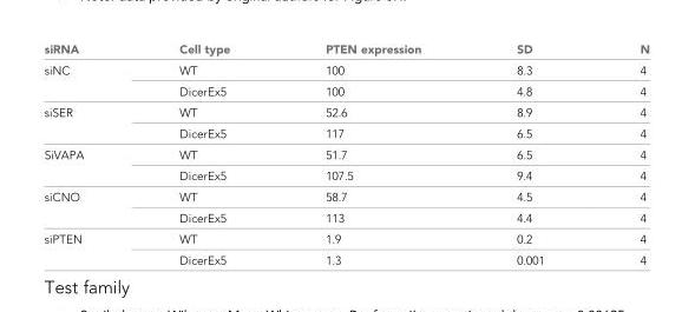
<table><thead><tr><td>siRNA</td><td>Cell type</td><td>PTEN expression</td><td>SD</td><td>N</td></tr></thead><tbody><tr><td rowspan="2">siNC</td><td>WT</td><td>100</td><td>8.3</td><td>4</td></tr><tr><td>DicerEx5</td><td>100</td><td>4.8</td><td>4</td></tr><tr><td rowspan="2">siSER</td><td>WT</td><td>52.6</td><td>8.9</td><td>4</td></tr><tr><td>DicerEx5</td><td>117</td><td>6.5</td><td>4</td></tr><tr><td rowspan="2">SiVAPA</td><td>WT</td><td>51.7</td><td>6.5</td><td>4</td></tr><tr><td>DicerEx5</td><td>107.5</td><td>9.4</td><td>4</td></tr><tr><td rowspan="2">siCNO</td><td>WT</td><td>58.7</td><td>4.5</td><td>4</td></tr><tr><td>DicerEx5</td><td>113</td><td>4.4</td><td>4</td></tr><tr><td rowspan="2">siPTEN</td><td>WT</td><td>1.9</td><td>0.2</td><td>4</td></tr><tr><td>DicerEx5</td><td>1.3</td><td>0.001</td><td>4</td></tr></tbody></table>